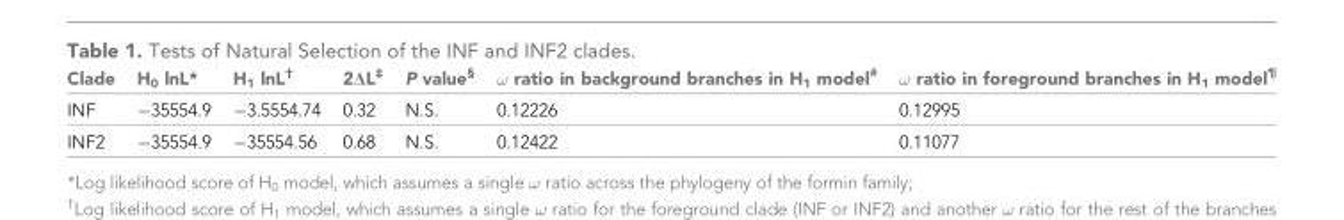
<table><thead><tr><td>Clade</td><td>H<sub>0</sub> lnL*</td><td>H<sub>1</sub> lnL<sup>†</sup></td><td>2ΔL<sup>‡</sup></td><td>P value<sup>§</sup></td><td>! ratio in background branches in H1 model#</td><td>! ratio in foreground branches in H1 model¶</td></tr></thead><tbody><tr><td>INF</td><td>−35554.9</td><td>−3.5554.74</td><td>0.32</td><td>N.S.</td><td>0.12226</td><td>0.12995</td></tr><tr><td>INF2</td><td>−35554.9</td><td>−35554.56</td><td>0.68</td><td>N.S.</td><td>0.12422</td><td>0.11077</td></tr></tbody></table>